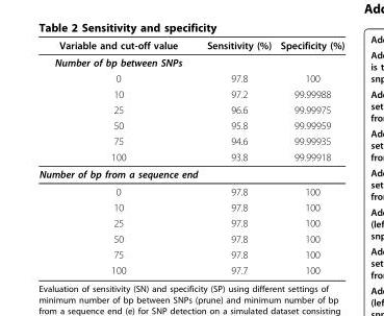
<table><thead><tr><td>Variable and cut-off value</td><td>Sensitivity (%)</td><td>Specificity (%)</td></tr></thead><tbody><tr><td colspan="3">Number of bp between SNPs</td></tr><tr><td>0</td><td>97.8</td><td>100</td></tr><tr><td>10</td><td>97.2</td><td>99.99988</td></tr><tr><td>25</td><td>96.6</td><td>99.99975</td></tr><tr><td>50</td><td>95.8</td><td>99.99959</td></tr><tr><td>75</td><td>94.6</td><td>99.99935</td></tr><tr><td>100</td><td>93.8</td><td>99.99918</td></tr><tr><td colspan="3">Number of bp from a sequence end</td></tr><tr><td>0</td><td>97.8</td><td>100</td></tr><tr><td>10</td><td>97.8</td><td>100</td></tr><tr><td>25</td><td>97.8</td><td>100</td></tr><tr><td>50</td><td>97.8</td><td>100</td></tr><tr><td>75</td><td>97.8</td><td>100</td></tr><tr><td>100</td><td>97.7</td><td>100</td></tr></tbody></table>